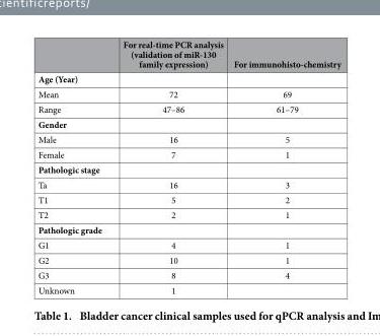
<table><thead><tr><td></td><td>For real-time PCR analysis (validation of miR-130 family expression)</td><td>For immunohisto-chemistry</td></tr></thead><tbody><tr><td colspan="3">Age (Year)</td></tr><tr><td>Mean</td><td>72</td><td>69</td></tr><tr><td>Range</td><td>47–86</td><td>61–79</td></tr><tr><td colspan="3">Gender</td></tr><tr><td>Male</td><td>16</td><td>5</td></tr><tr><td>Female</td><td>7</td><td>1</td></tr><tr><td colspan="3">Pathologic stage</td></tr><tr><td>Ta</td><td>16</td><td>3</td></tr><tr><td>T1</td><td>5</td><td>2</td></tr><tr><td>T2</td><td>2</td><td>1</td></tr><tr><td colspan="3">Pathologic grade</td></tr><tr><td>G1</td><td>4</td><td>1</td></tr><tr><td>G2</td><td>10</td><td>1</td></tr><tr><td>G3</td><td>8</td><td>4</td></tr><tr><td>Unknown</td><td>1</td><td></td></tr></tbody></table>